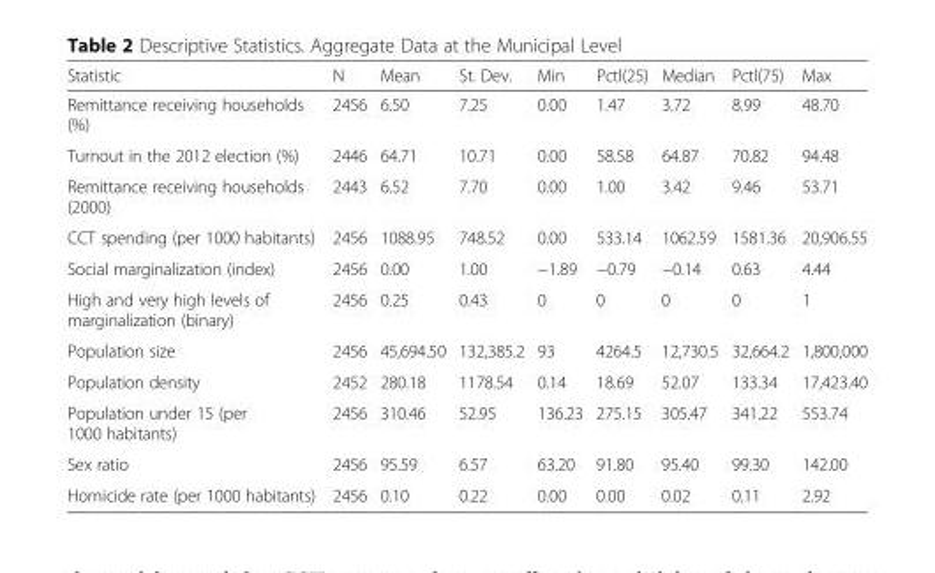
<table><thead><tr><td>Statistic</td><td>N</td><td>Mean</td><td>St. Dev.</td><td>Min</td><td>Pctl(25)</td><td>Median</td><td>Pctl(75)</td><td>Max</td></tr></thead><tbody><tr><td>Remittance receiving households (%)</td><td>2456</td><td>6.50</td><td>7.25</td><td>0.00</td><td>1.47</td><td>3.72</td><td>8.99</td><td>48.70</td></tr><tr><td>Turnout in the 2012 election (%)</td><td>2446</td><td>64.71</td><td>10.71</td><td>0.00</td><td>58.58</td><td>64.87</td><td>70.82</td><td>94.48</td></tr><tr><td>Remittance receiving households (2000)</td><td>2443</td><td>6.52</td><td>7.70</td><td>0.00</td><td>1.00</td><td>3.42</td><td>9.46</td><td>53.71</td></tr><tr><td>CCT spending (per 1000 habitants)</td><td>2456</td><td>1088.95</td><td>748.52</td><td>0.00</td><td>533.14</td><td>1062.59</td><td>1581.36</td><td>20,906.55</td></tr><tr><td>Social marginalization (index)</td><td>2456</td><td>0.00</td><td>1.00</td><td>−1.89</td><td>−0.79</td><td>−0.14</td><td>0.63</td><td>4.44</td></tr><tr><td>High and very high levels of marginalization (binary)</td><td>2456</td><td>0.25</td><td>0.43</td><td>0</td><td>0</td><td>0</td><td>0</td><td>1</td></tr><tr><td>Population size</td><td>2456</td><td>45,694.50</td><td>132,385.2</td><td>93</td><td>4264.5</td><td>12,730.5</td><td>32,664.2</td><td>1,800,000</td></tr><tr><td>Population density</td><td>2452</td><td>280.18</td><td>1178.54</td><td>0.14</td><td>18.69</td><td>52.07</td><td>133.34</td><td>17,423.40</td></tr><tr><td>Population under 15 (per 1000 habitants)</td><td>2456</td><td>310.46</td><td>52.95</td><td>136.23</td><td>275.15</td><td>305.47</td><td>341.22</td><td>553.74</td></tr><tr><td>Sex ratio</td><td>2456</td><td>95.59</td><td>6.57</td><td>63.20</td><td>91.80</td><td>95.40</td><td>99.30</td><td>142.00</td></tr><tr><td>Homicide rate (per 1000 habitants)</td><td>2456</td><td>0.10</td><td>0.22</td><td>0.00</td><td>0.00</td><td>0.02</td><td>0.11</td><td>2.92</td></tr></tbody></table>